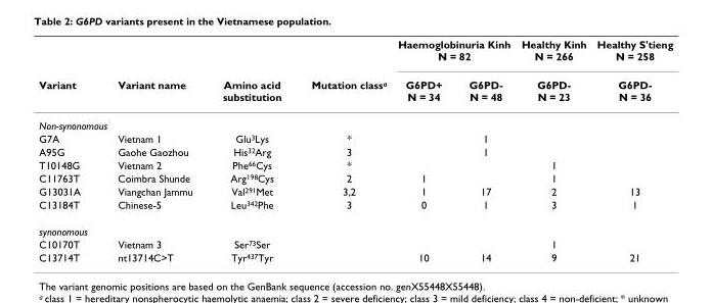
<table><thead><tr><td rowspan="2">Variant</td><td rowspan="2">Variant name</td><td rowspan="2">Amino acid substitution</td><td rowspan="2">Mutation class<sup>a</sup></td><td colspan="2">Haemoglobinuria Kinh N = 82</td><td rowspan="2">Healthy Kinh N = 266 G6PD- N = 23</td><td rowspan="2">Healthy S&#x27;tieng N = 258 G6PD- N = 36</td></tr><tr><td>G6PD+ N = 34</td><td>G6PD- N = 48</td></tr></thead><tbody><tr><td colspan="8">Non-synonomous</td></tr><tr><td>G7A</td><td>Vietnam 1</td><td>Glu<sup>3</sup>Lys</td><td>*</td><td></td><td>1</td><td></td><td></td></tr><tr><td>A95G</td><td>Gaohe Gaozhou</td><td>His<sup>32</sup>Arg</td><td>3</td><td></td><td>1</td><td></td><td></td></tr><tr><td>T10148G</td><td>Vietnam 2</td><td>Phe<sup>66</sup>Cys</td><td>*</td><td></td><td></td><td>1</td><td></td></tr><tr><td>C11763T</td><td>Coimbra Shunde</td><td>Arg<sup>198</sup>Cys</td><td>2</td><td>1</td><td></td><td>1</td><td></td></tr><tr><td>G13031A</td><td>Viangchan Jammu</td><td>Val<sup>291</sup>Met</td><td>3,2</td><td>1</td><td>17</td><td>2</td><td>13</td></tr><tr><td>C13184T</td><td>Chinese-5</td><td>Leu<sup>342</sup>Phe</td><td>3</td><td>0</td><td>1</td><td>3</td><td>1</td></tr><tr><td colspan="8">synonomous</td></tr><tr><td>C10170T</td><td>Vietnam 3</td><td>Ser<sup>73</sup>Ser</td><td></td><td></td><td></td><td>1</td><td></td></tr><tr><td>C13714T</td><td>nt13714C&gt;T</td><td>Tyr<sup>437</sup>Tyr</td><td></td><td>10</td><td>14</td><td>9</td><td>21</td></tr></tbody></table>